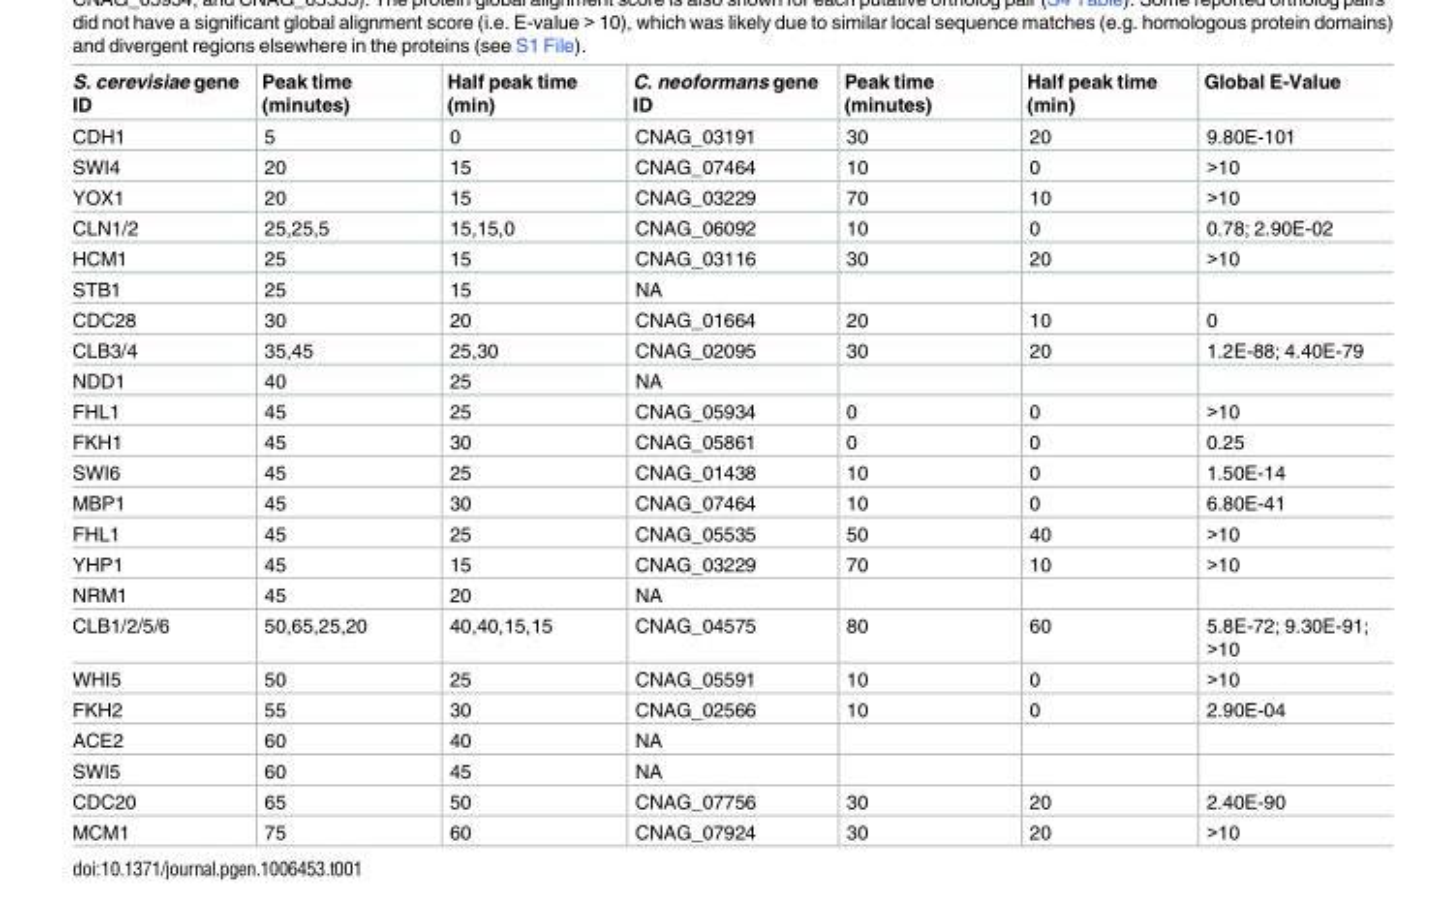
<table><thead><tr><td>S. cerevisiae gene ID</td><td>Peak time (minutes)</td><td>Half peak time (min)</td><td>C. neoformans gene ID</td><td>Peak time (minutes)</td><td>Half peak time (min)</td><td>Global E-Value</td></tr></thead><tbody><tr><td>CDH1</td><td>5</td><td>0</td><td>CNAG_03191</td><td>30</td><td>20</td><td>9.80E-101</td></tr><tr><td>SWI4</td><td>20</td><td>15</td><td>CNAG_07464</td><td>10</td><td>0</td><td>&gt;10</td></tr><tr><td>YOX1</td><td>20</td><td>15</td><td>CNAG_03229</td><td>70</td><td>10</td><td>&gt;10</td></tr><tr><td>CLN1/2</td><td>25,25,5</td><td>15,15,0</td><td>CNAG_06092</td><td>10</td><td>0</td><td>0.78; 2.90E-02</td></tr><tr><td>HCM1</td><td>25</td><td>15</td><td>CNAG_03116</td><td>30</td><td>20</td><td>&gt;10</td></tr><tr><td>STB1</td><td>25</td><td>15</td><td>NA</td><td></td><td></td><td></td></tr><tr><td>CDC28</td><td>30</td><td>20</td><td>CNAG_01664</td><td>20</td><td>10</td><td>0</td></tr><tr><td>CLB3/4</td><td>35,45</td><td>25,30</td><td>CNAG_02095</td><td>30</td><td>20</td><td>1.2E-88; 4.40E-79</td></tr><tr><td>NDD1</td><td>40</td><td>25</td><td>NA</td><td></td><td></td><td></td></tr><tr><td>FHL1</td><td>45</td><td>25</td><td>CNAG_05934</td><td>0</td><td>0</td><td>&gt;10</td></tr><tr><td>FKH1</td><td>45</td><td>30</td><td>CNAG_05861</td><td>0</td><td>0</td><td>0.25</td></tr><tr><td>SWI6</td><td>45</td><td>25</td><td>CNAG_01438</td><td>10</td><td>0</td><td>1.50E-14</td></tr><tr><td>MBP1</td><td>45</td><td>30</td><td>CNAG_07464</td><td>10</td><td>0</td><td>6.80E-41</td></tr><tr><td>FHL1</td><td>45</td><td>25</td><td>CNAG_05535</td><td>50</td><td>40</td><td>&gt;10</td></tr><tr><td>YHP1</td><td>45</td><td>15</td><td>CNAG_03229</td><td>70</td><td>10</td><td>&gt;10</td></tr><tr><td>NRM1</td><td>45</td><td>20</td><td>NA</td><td></td><td></td><td></td></tr><tr><td>CLB1/2/5/6</td><td>50,65,25,20</td><td>40,40,15,15</td><td>CNAG_04575</td><td>80</td><td>60</td><td>5.8E-72; 9.30E-91; &gt;10</td></tr><tr><td>WHI5</td><td>50</td><td>25</td><td>CNAG_05591</td><td>10</td><td>0</td><td>&gt;10</td></tr><tr><td>FKH2</td><td>55</td><td>30</td><td>CNAG_02566</td><td>10</td><td>0</td><td>2.90E-04</td></tr><tr><td>ACE2</td><td>60</td><td>40</td><td>NA</td><td></td><td></td><td></td></tr><tr><td>SWI5</td><td>60</td><td>45</td><td>NA</td><td></td><td></td><td></td></tr><tr><td>CDC20</td><td>65</td><td>50</td><td>CNAG_07756</td><td>30</td><td>20</td><td>2.40E-90</td></tr><tr><td>MCM1</td><td>75</td><td>60</td><td>CNAG_07924</td><td>30</td><td>20</td><td>&gt;10</td></tr></tbody></table>